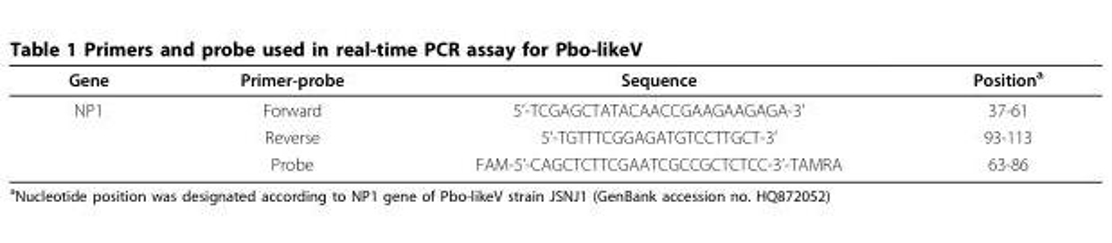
<table><thead><tr><td>Gene</td><td>Primer-probe</td><td>Sequence</td><td>Position<sup>a</sup></td></tr></thead><tbody><tr><td rowspan="3">NP1</td><td>Forward</td><td>5’-TCGAGCTATACAACCGAAGAAGAGA-3’</td><td>37-61</td></tr><tr><td>Reverse</td><td>5’-TGTTTCGGAGATGTCCTTGCT-3’</td><td>93-113</td></tr><tr><td>Probe</td><td>FAM-5’-CAGCTCTTCGAATCGCCGCTCTCC-3’-TAMRA</td><td>63-86</td></tr></tbody></table>